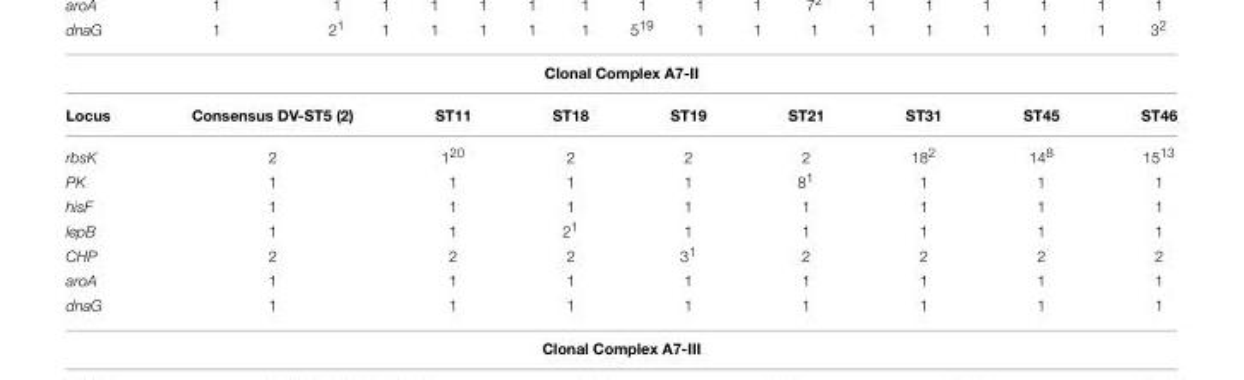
<table><thead><tr><td colspan="9">Clonal Complex A7-II</td></tr><tr><td>Locus</td><td>Consensus DV-ST5 (2)</td><td>ST11</td><td>ST18</td><td>ST19</td><td>ST21</td><td>ST31</td><td>ST45</td><td>ST46</td></tr></thead><tbody><tr><td>rbsK</td><td>2</td><td>1<sup>20</sup></td><td>2</td><td>2</td><td>2</td><td>18<sup>2</sup></td><td>14<sup>8</sup></td><td>15<sup>13</sup></td></tr><tr><td>PK</td><td>1</td><td>1</td><td>1</td><td>1</td><td>8<sup>1</sup></td><td>1</td><td>1</td><td>1</td></tr><tr><td>hisF</td><td>1</td><td>1</td><td>1</td><td>1</td><td>1</td><td>1</td><td>1</td><td>1</td></tr><tr><td>lepB</td><td>1</td><td>1</td><td>2<sup>1</sup></td><td>1</td><td>1</td><td>1</td><td>1</td><td>1</td></tr><tr><td>CHP</td><td>2</td><td>2</td><td>2</td><td>3<sup>1</sup></td><td>2</td><td>2</td><td>2</td><td>2</td></tr><tr><td>aroA</td><td>1</td><td>1</td><td>1</td><td>1</td><td>1</td><td>1</td><td>1</td><td>1</td></tr><tr><td>dnaG</td><td>1</td><td>1</td><td>1</td><td>1</td><td>1</td><td>1</td><td>1</td><td>1</td></tr></tbody></table>